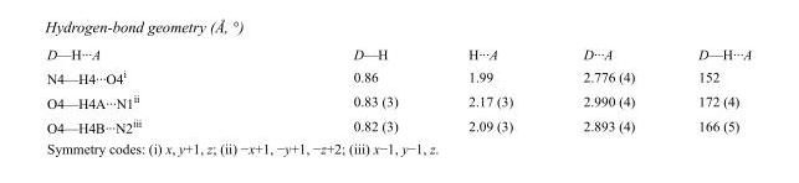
<table><tbody><tr><td>D—H···A</td><td>D—H</td><td>H···A</td><td>D···A</td><td>D—H···A</td></tr><tr><td>N4—H4···O4<sup>i</sup></td><td>0.86</td><td>1.99</td><td>2.776 (4)</td><td>152</td></tr><tr><td>O4—H4A···N1<sup>ii</sup></td><td>0.83 (3)</td><td>2.17 (3)</td><td>2.990 (4)</td><td>172 (4)</td></tr><tr><td>O4—H4B···N2<sup>iii</sup></td><td>0.82 (3)</td><td>2.09 (3)</td><td>2.893 (4)</td><td>166 (5)</td></tr></tbody></table>